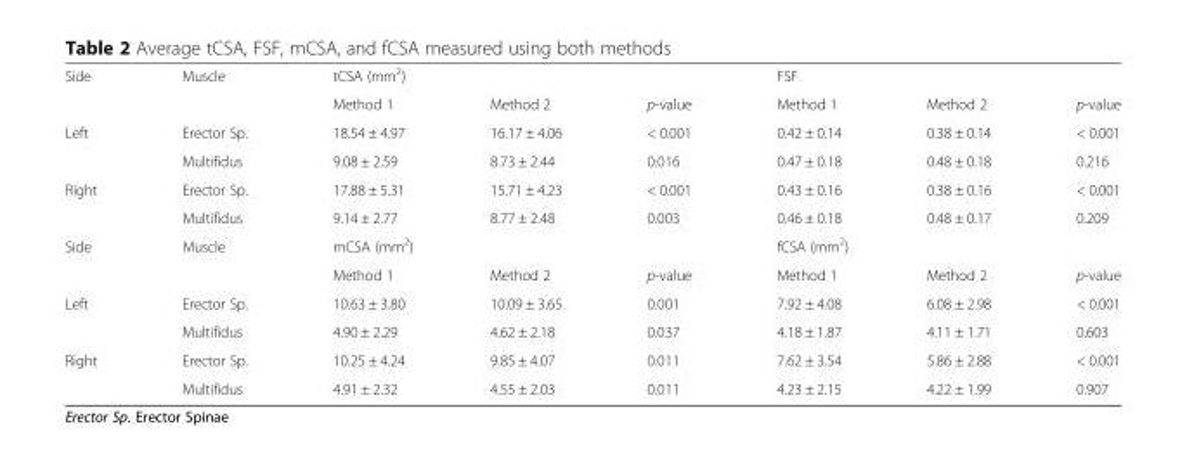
<table><tbody><tr><td rowspan="2">Side</td><td rowspan="2">Muscle</td><td colspan="3">tCSA (mm<sup>2</sup>)</td><td colspan="3">FSF</td></tr><tr><td>Method 1</td><td>Method 2</td><td>p-value</td><td>Method 1</td><td>Method 2</td><td>p-value</td></tr><tr><td rowspan="2">Left</td><td>Erector Sp.</td><td>18.54 ± 4.97</td><td>16.17 ± 4.06</td><td>&lt; 0.001</td><td>0.42 ± 0.14</td><td>0.38 ± 0.14</td><td>&lt; 0.001</td></tr><tr><td>Multifidus</td><td>9.08 ± 2.59</td><td>8.73 ± 2.44</td><td>0.016</td><td>0.47 ± 0.18</td><td>0.48 ± 0.18</td><td>0.216</td></tr><tr><td rowspan="2">Right</td><td>Erector Sp.</td><td>17.88 ± 5.31</td><td>15.71 ± 4.23</td><td>&lt; 0.001</td><td>0.43 ± 0.16</td><td>0.38 ± 0.16</td><td>&lt; 0.001</td></tr><tr><td>Multifidus</td><td>9.14 ± 2.77</td><td>8.77 ± 2.48</td><td>0.003</td><td>0.46 ± 0.18</td><td>0.48 ± 0.17</td><td>0.209</td></tr><tr><td rowspan="2">Side</td><td rowspan="2">Muscle</td><td colspan="3">mCSA (mm<sup>2</sup>)</td><td colspan="3">fCSA (mm<sup>2</sup>)</td></tr><tr><td>Method 1</td><td>Method 2</td><td>p-value</td><td>Method 1</td><td>Method 2</td><td>p-value</td></tr><tr><td rowspan="2">Left</td><td>Erector Sp.</td><td>10.63 ± 3.80</td><td>10.09 ± 3.65</td><td>0.001</td><td>7.92 ± 4.08</td><td>6.08 ± 2.98</td><td>&lt; 0.001</td></tr><tr><td>Multifidus</td><td>4.90 ± 2.29</td><td>4.62 ± 2.18</td><td>0.037</td><td>4.18 ± 1.87</td><td>4.11 ± 1.71</td><td>0.603</td></tr><tr><td rowspan="2">Right</td><td>Erector Sp.</td><td>10.25 ± 4.24</td><td>9.85 ± 4.07</td><td>0.011</td><td>7.62 ± 3.54</td><td>5.86 ± 2.88</td><td>&lt; 0.001</td></tr><tr><td>Multifidus</td><td>4.91 ± 2.32</td><td>4.55 ± 2.03</td><td>0.011</td><td>4.23 ± 2.15</td><td>4.22 ± 1.99</td><td>0.907</td></tr></tbody></table>